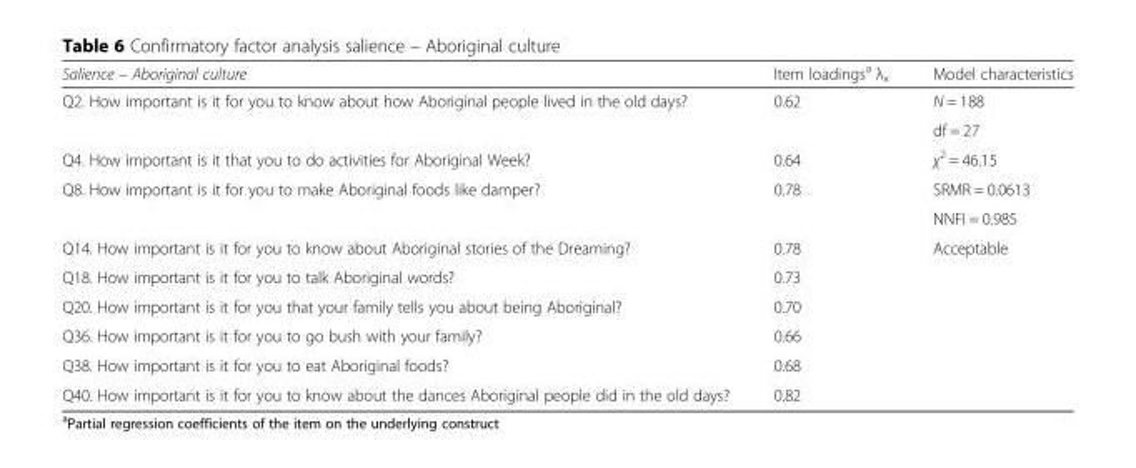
<table><thead><tr><td>Salience – Aboriginal culture</td><td>Item loadings<sup>a</sup> λ<sub>x</sub></td><td>Model characteristics</td></tr></thead><tbody><tr><td rowspan="2">Q2. How important is it for you to know about how Aboriginal people lived in the old days?</td><td rowspan="2">0.62</td><td>N = 188</td></tr><tr><td>df = 27</td></tr><tr><td>Q4. How important is it that you to do activities for Aboriginal Week?</td><td>0.64</td><td>χ<sup>2</sup> = 46.15</td></tr><tr><td rowspan="2">Q8. How important is it for you to make Aboriginal foods like damper?</td><td rowspan="2">0.78</td><td>SRMR = 0.0613</td></tr><tr><td>NNFI = 0.985</td></tr><tr><td>Q14. How important is it for you to know about Aboriginal stories of the Dreaming?</td><td>0.78</td><td rowspan="6">Acceptable</td></tr><tr><td>Q18. How important is it for you to talk Aboriginal words?</td><td>0.73</td></tr><tr><td>Q20. How important is it for you that your family tells you about being Aboriginal?</td><td>0.70</td></tr><tr><td>Q36. How important is it for you to go bush with your family?</td><td>0.66</td></tr><tr><td>Q38. How important is it for you to eat Aboriginal foods?</td><td>0.68</td></tr><tr><td>Q40. How important is it for you to know about the dances Aboriginal people did in the old days?</td><td>0.82</td></tr></tbody></table>